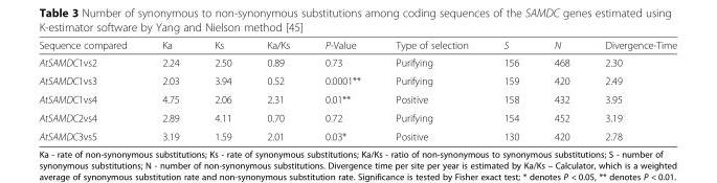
<table><thead><tr><td>Sequence compared</td><td>Ka</td><td>Ks</td><td>Ka/Ks</td><td>P-Value</td><td>Type of selection</td><td>S</td><td>N</td><td>Divergence-Time</td></tr></thead><tbody><tr><td>AtSAMDC1vs2</td><td>2.24</td><td>2.50</td><td>0.89</td><td>0.73</td><td>Purifying</td><td>156</td><td>468</td><td>2.30</td></tr><tr><td>AtSAMDC1vs3</td><td>2.03</td><td>3.94</td><td>0.52</td><td>0.0001**</td><td>Purifying</td><td>159</td><td>420</td><td>2.49</td></tr><tr><td>AtSAMDC1vs4</td><td>4.75</td><td>2.06</td><td>2.31</td><td>0.01**</td><td>Positive</td><td>158</td><td>432</td><td>3.95</td></tr><tr><td>AtSAMDC2vs4</td><td>2.89</td><td>4.11</td><td>0.70</td><td>0.72</td><td>Purifying</td><td>154</td><td>452</td><td>3.19</td></tr><tr><td>AtSAMDC3vs5</td><td>3.19</td><td>1.59</td><td>2.01</td><td>0.03*</td><td>Positive</td><td>130</td><td>420</td><td>2.78</td></tr></tbody></table>